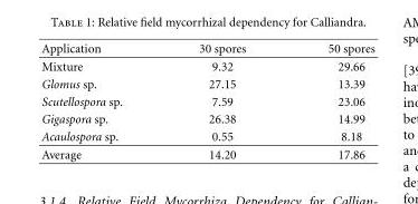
<table><thead><tr><td>Application</td><td>30 spores</td><td>50 spores</td></tr></thead><tbody><tr><td>Mixture</td><td>9.32</td><td>29.66</td></tr><tr><td>Glomus sp.</td><td>27.15</td><td>13.39</td></tr><tr><td>Scutellospora sp.</td><td>7.59</td><td>23.06</td></tr><tr><td>Gigaspora sp.</td><td>26.38</td><td>14.99</td></tr><tr><td>Acaulospora sp.</td><td>0.55</td><td>8.18</td></tr><tr><td>Average</td><td>14.20</td><td>17.86</td></tr></tbody></table>